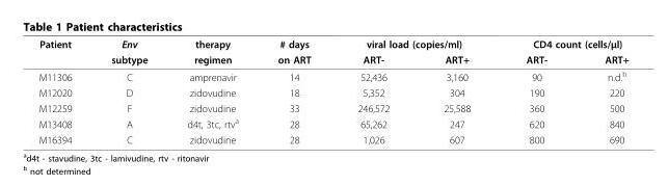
<table><thead><tr><td rowspan="2">Patient</td><td rowspan="2">Env subtype</td><td rowspan="2">therapy regimen</td><td rowspan="2"># days on ART</td><td colspan="2">viral load (copies/ml)</td><td colspan="2">CD4 count (cells/μl)</td></tr><tr><td>ART-</td><td>ART+</td><td>ART-</td><td>ART+</td></tr></thead><tbody><tr><td>M11306</td><td>C</td><td>amprenavir</td><td>14</td><td>52,436</td><td>3,160</td><td>90</td><td>n.d.<sup>b</sup></td></tr><tr><td>M12020</td><td>D</td><td>zidovudine</td><td>18</td><td>5,352</td><td>304</td><td>190</td><td>220</td></tr><tr><td>M12259</td><td>F</td><td>zidovudine</td><td>33</td><td>246,572</td><td>25,588</td><td>360</td><td>500</td></tr><tr><td>M13408</td><td>A</td><td>d4t, 3tc, rtv<sup>a</sup></td><td>28</td><td>65,262</td><td>247</td><td>620</td><td>840</td></tr><tr><td>M16394</td><td>C</td><td>zidovudine</td><td>28</td><td>1,026</td><td>607</td><td>800</td><td>690</td></tr></tbody></table>